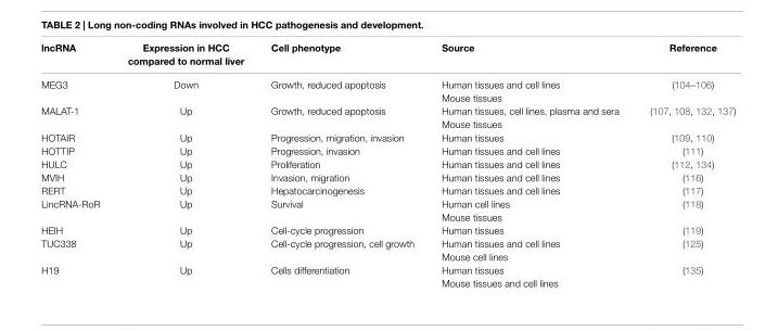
<table><thead><tr><td>lncRnA</td><td>expression in Hcc compared to normal liver</td><td>cell phenotype</td><td>source</td><td>Reference</td></tr></thead><tbody><tr><td rowspan="2">MEG3</td><td rowspan="2">Down</td><td rowspan="2">Growth, reduced apoptosis</td><td>Human tissues and cell lines</td><td rowspan="2">(104–106)</td></tr><tr><td>Mouse tissues</td></tr><tr><td rowspan="2">MALAT-1</td><td rowspan="2">Up</td><td rowspan="2">Growth, reduced apoptosis</td><td>Human tissues, cell lines, plasma and sera</td><td rowspan="2">(107, 108, 132, 137)</td></tr><tr><td>Mouse tissues</td></tr><tr><td>HOTAIR</td><td>Up</td><td>Progression, migration, invasion</td><td>Human tissues</td><td>(109, 110)</td></tr><tr><td>HOTTIP</td><td>Up</td><td>Progression, invasion</td><td>Human tissues and cell lines</td><td>(111)</td></tr><tr><td>HULC</td><td>Up</td><td>Proliferation</td><td>Human tissues and cell lines</td><td>(112, 134)</td></tr><tr><td>MVIH</td><td>Up</td><td>Invasion, migration</td><td>Human tissues and cell lines</td><td>(116)</td></tr><tr><td>RERT</td><td>Up</td><td>Hepatocarcinogenesis</td><td>Human tissues and cell lines</td><td>(117)</td></tr><tr><td rowspan="2">LincRNA-RoR</td><td rowspan="2">Up</td><td rowspan="2">Survival</td><td>Human cell lines</td><td rowspan="2">(118)</td></tr><tr><td>Mouse tissues</td></tr><tr><td>HEIH</td><td>Up</td><td>Cell-cycle progression</td><td>Human tissues</td><td>(119)</td></tr><tr><td rowspan="2">TUC338</td><td rowspan="2">Up</td><td rowspan="2">Cell-cycle progression, cell growth</td><td>Human tissues and cell lines</td><td rowspan="2">(125)</td></tr><tr><td>Mouse cell lines</td></tr><tr><td rowspan="2">H19</td><td rowspan="2">Up</td><td rowspan="2">Cells differentiation</td><td>Human tissues</td><td rowspan="2">(135)</td></tr><tr><td>Mouse tissues and cell lines</td></tr></tbody></table>